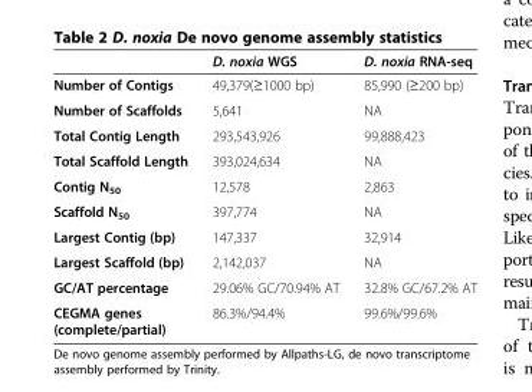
<table><thead><tr><td></td><td>D. noxia WGS</td><td>D. noxia RNA-seq</td></tr></thead><tbody><tr><td>Number of Contigs</td><td>49,379(≥1000 bp)</td><td>85,990 (≥200 bp)</td></tr><tr><td>Number of Scaffolds</td><td>5,641</td><td>NA</td></tr><tr><td>Total Contig Length</td><td>293,543,926</td><td>99,888,423</td></tr><tr><td>Total Scaffold Length</td><td>393,024,634</td><td>NA</td></tr><tr><td>Contig N<sub>50</sub></td><td>12,578</td><td>2,863</td></tr><tr><td>Scaffold N<sub>50</sub></td><td>397,774</td><td>NA</td></tr><tr><td>Largest Contig (bp)</td><td>147,337</td><td>32,914</td></tr><tr><td>Largest Scaffold (bp)</td><td>2,142,037</td><td>NA</td></tr><tr><td>GC/AT percentage</td><td>29.06% GC/70.94% AT</td><td>32.8% GC/67.2% AT</td></tr><tr><td>CEGMA genes (complete/partial)</td><td>86.3%/94.4%</td><td>99.6%/99.6%</td></tr></tbody></table>